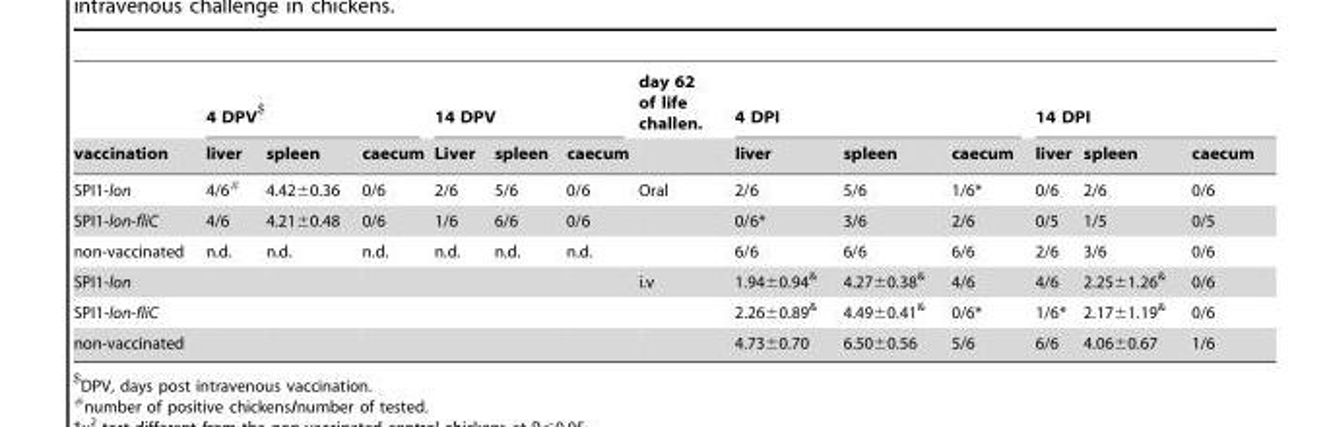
<table><thead><tr><td rowspan="2">vaccination</td><td colspan="3">4 DPV$</td><td colspan="3">14 DPV</td><td rowspan="2">day 62 of life challen.</td><td colspan="3">4 DPI</td><td colspan="3">14 DPI</td></tr><tr><td>liver</td><td>spleen</td><td>caecum</td><td>Liver</td><td>spleen</td><td>caecum</td><td>liver</td><td>spleen</td><td>caecum</td><td>liver</td><td>spleen</td><td>caecum</td></tr></thead><tbody><tr><td>SPI1-lon</td><td>4/6#</td><td>4.42±0.36</td><td>0/6</td><td>2/6</td><td>5/6</td><td>0/6</td><td>Oral</td><td>2/6</td><td>5/6</td><td>1/6*</td><td>0/6</td><td>2/6</td><td>0/6</td></tr><tr><td>SPI1-lon-fliC</td><td>4/6</td><td>4.21±0.48</td><td>0/6</td><td>1/6</td><td>6/6</td><td>0/6</td><td></td><td>0/6*</td><td>3/6</td><td>2/6</td><td>0/5</td><td>1/5</td><td>0/5</td></tr><tr><td>non-vaccinated</td><td>n.d.</td><td>n.d.</td><td>n.d.</td><td>n.d.</td><td>n.d.</td><td>n.d.</td><td></td><td>6/6</td><td>6/6</td><td>6/6</td><td>2/6</td><td>3/6</td><td>0/6</td></tr><tr><td>SPI1-lon</td><td></td><td></td><td></td><td></td><td></td><td></td><td>i.v</td><td>1.94±0.94&amp;</td><td>4.27±0.38&amp;</td><td>4/6</td><td>4/6</td><td>2.25±1.26&amp;</td><td>0/6</td></tr><tr><td>SPI1-lon-fliC</td><td></td><td></td><td></td><td></td><td></td><td></td><td></td><td>2.26±0.89&amp;</td><td>4.49±0.41&amp;</td><td>0/6*</td><td>1/6*</td><td>2.17±1.19&amp;</td><td>0/6</td></tr><tr><td>non-vaccinated</td><td></td><td></td><td></td><td></td><td></td><td></td><td></td><td>4.73±0.70</td><td>6.50±0.56</td><td>5/6</td><td>6/6</td><td>4.06±0.67</td><td>1/6</td></tr></tbody></table>